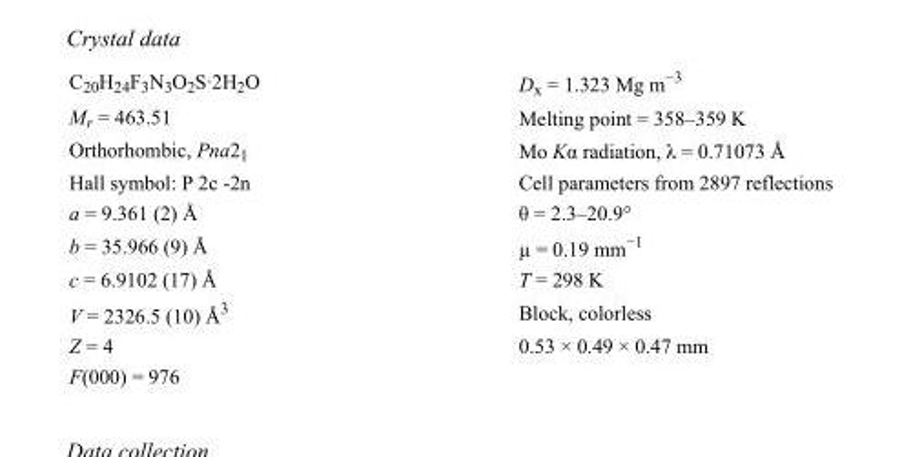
<table><tbody><tr><td>C<sub>20</sub>H<sub>24</sub>F<sub>3</sub>N<sub>3</sub>O<sub>2</sub>S·2H<sub>2</sub>O</td><td>D<sub>x</sub> = 1.323 Mg m<sup>−3</sup></td></tr><tr><td>M<sub>r</sub> = 463.51</td><td>Melting point = 358–359 K</td></tr><tr><td>Orthorhombic, Pna2<sub>1</sub></td><td>Mo Kα radiation, λ = 0.71073 Å</td></tr><tr><td>Hall symbol: P 2c -2n</td><td>Cell parameters from 2897 reflections</td></tr><tr><td>a = 9.361 (2) Å</td><td>θ = 2.3–20.9°</td></tr><tr><td>b = 35.966 (9) Å</td><td>µ = 0.19 mm<sup>−1</sup></td></tr><tr><td>c = 6.9102 (17) Å</td><td>T = 298 K</td></tr><tr><td>V = 2326.5 (10) Å<sup>3</sup></td><td>Block, colorless</td></tr><tr><td>Z = 4</td><td>0.53 × 0.49 × 0.47 mm</td></tr><tr><td>F(000) = 976</td><td></td></tr></tbody></table>